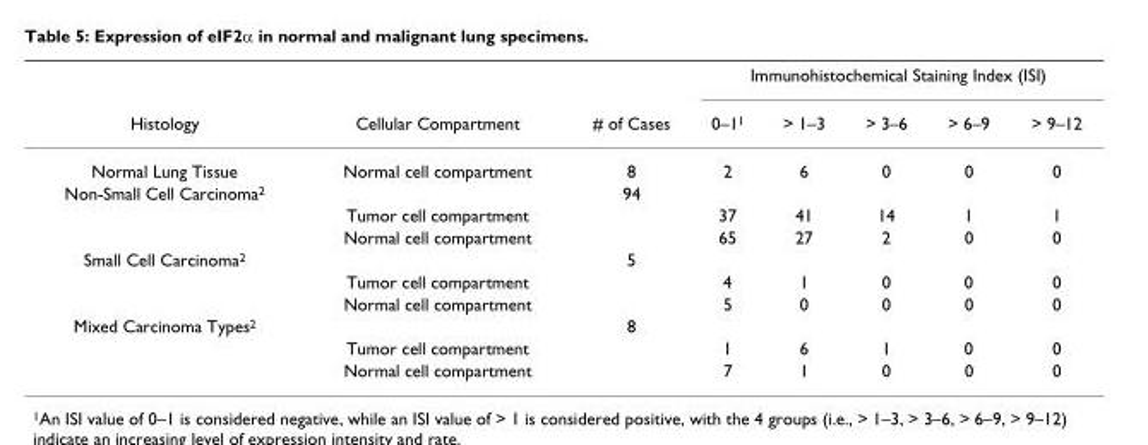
<table><thead><tr><td rowspan="2">Histology</td><td rowspan="2">Cellular Compartment</td><td rowspan="2"># of Cases</td><td colspan="5">Immunohistochemical Staining Index (ISI)</td></tr><tr><td>0–1<sup>1</sup></td><td>&gt; 1–3</td><td>&gt; 3–6</td><td>&gt; 6–9</td><td>&gt; 9–12</td></tr></thead><tbody><tr><td>Normal Lung Tissue</td><td>Normal cell compartment</td><td>8</td><td>2</td><td>6</td><td>0</td><td>0</td><td>0</td></tr><tr><td rowspan="3">Non-Small Cell Carcinoma<sup>2</sup></td><td></td><td>94</td><td></td><td></td><td></td><td></td><td></td></tr><tr><td>Tumor cell compartment</td><td></td><td>37</td><td>41</td><td>14</td><td>1</td><td>1</td></tr><tr><td>Normal cell compartment</td><td></td><td>65</td><td>27</td><td>2</td><td>0</td><td>0</td></tr><tr><td rowspan="3">Small Cell Carcinoma<sup>2</sup></td><td></td><td>5</td><td></td><td></td><td></td><td></td><td></td></tr><tr><td>Tumor cell compartment</td><td></td><td>4</td><td>1</td><td>0</td><td>0</td><td>0</td></tr><tr><td>Normal cell compartment</td><td></td><td>5</td><td>0</td><td>0</td><td>0</td><td>0</td></tr><tr><td rowspan="3">Mixed Carcinoma Types<sup>2</sup></td><td></td><td>8</td><td></td><td></td><td></td><td></td><td></td></tr><tr><td>Tumor cell compartment</td><td></td><td>1</td><td>6</td><td>1</td><td>0</td><td>0</td></tr><tr><td>Normal cell compartment</td><td></td><td>7</td><td>1</td><td>0</td><td>0</td><td>0</td></tr></tbody></table>